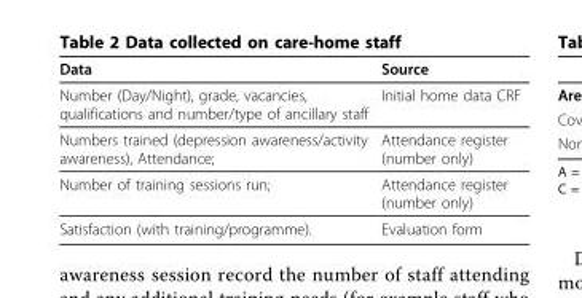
<table><thead><tr><td>Data</td><td>Source</td></tr></thead><tbody><tr><td>Number (Day/Night), grade, vacancies, qualifications and number/type of ancillary staff</td><td>Initial home data CRF</td></tr><tr><td>Numbers trained (depression awareness/activity awareness), Attendance;</td><td>Attendance register (number only)</td></tr><tr><td>Number of training sessions run;</td><td>Attendance register (number only)</td></tr><tr><td>Satisfaction (with training/programme).</td><td>Evaluation form</td></tr></tbody></table>